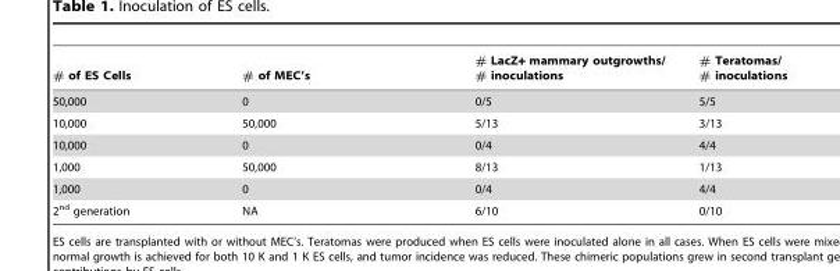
<table><thead><tr><td># of ES Cells</td><td># of MEC’s</td><td># LacZ+ mammary outgrowths/ # inoculations</td><td># Teratomas/ # inoculations</td></tr></thead><tbody><tr><td>50,000</td><td>0</td><td>0/5</td><td>5/5</td></tr><tr><td>10,000</td><td>50,000</td><td>5/13</td><td>3/13</td></tr><tr><td>10,000</td><td>0</td><td>0/4</td><td>4/4</td></tr><tr><td>1,000</td><td>50,000</td><td>8/13</td><td>1/13</td></tr><tr><td>1,000</td><td>0</td><td>0/4</td><td>4/4</td></tr><tr><td>2<sup>nd</sup> generation</td><td>NA</td><td>6/10</td><td>0/10</td></tr></tbody></table>